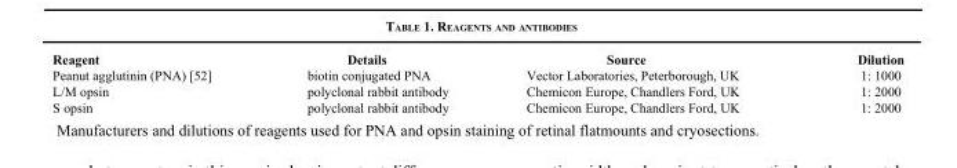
<table><thead><tr><td>Reagent</td><td>Details</td><td>Source</td><td>Dilution</td></tr></thead><tbody><tr><td>Peanut agglutinin (PNA) [52]</td><td>biotin conjugated PNA</td><td>Vector Laboratories, Peterborough, UK</td><td>1: 1000</td></tr><tr><td>L/M opsin</td><td>polyclonal rabbit antibody</td><td>Chemicon Europe, Chandlers Ford, UK</td><td>1: 2000</td></tr><tr><td>S opsin</td><td>polyclonal rabbit antibody</td><td>Chemicon Europe, Chandlers Ford, UK</td><td>1: 2000</td></tr></tbody></table>